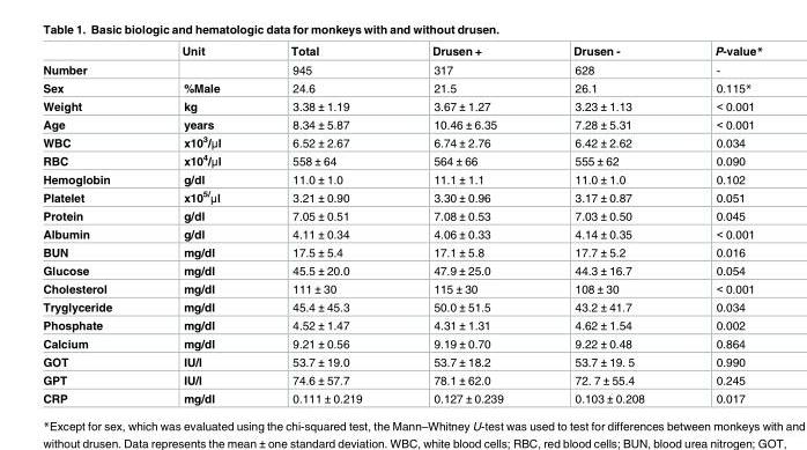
<table><thead><tr><td></td><td>Unit</td><td>Total</td><td>Drusen +</td><td>Drusen -</td><td>P-value*</td></tr></thead><tbody><tr><td>Number</td><td></td><td>945</td><td>317</td><td>628</td><td>-</td></tr><tr><td>Sex</td><td>%Male</td><td>24.6</td><td>21.5</td><td>26.1</td><td>0.115*</td></tr><tr><td>Weight</td><td>kg</td><td>3.38 ± 1.19</td><td>3.67 ± 1.27</td><td>3.23 ± 1.13</td><td>&lt; 0.001</td></tr><tr><td>Age</td><td>years</td><td>8.34 ± 5.87</td><td>10.46 ± 6.35</td><td>7.28 ± 5.31</td><td>&lt; 0.001</td></tr><tr><td>WBC</td><td>x10<sup>3</sup>/μl</td><td>6.52 ± 2.67</td><td>6.74 ± 2.76</td><td>6.42 ± 2.62</td><td>0.034</td></tr><tr><td>RBC</td><td>x10<sup>4</sup>/μl</td><td>558 ± 64</td><td>564 ± 66</td><td>555 ± 62</td><td>0.090</td></tr><tr><td>Hemoglobin</td><td>g/dl</td><td>11.0 ± 1.0</td><td>11.1 ± 1.1</td><td>11.0 ± 1.0</td><td>0.102</td></tr><tr><td>Platelet</td><td>x10<sup>5/</sup>μl</td><td>3.21 ± 0.90</td><td>3.30 ± 0.96</td><td>3.17 ± 0.87</td><td>0.051</td></tr><tr><td>Protein</td><td>g/dl</td><td>7.05 ± 0.51</td><td>7.08 ± 0.53</td><td>7.03 ± 0.50</td><td>0.045</td></tr><tr><td>Albumin</td><td>g/dl</td><td>4.11 ± 0.34</td><td>4.06 ± 0.33</td><td>4.14 ± 0.35</td><td>&lt; 0.001</td></tr><tr><td>BUN</td><td>mg/dl</td><td>17.5 ± 5.4</td><td>17.1 ± 5.8</td><td>17.7 ± 5.2</td><td>0.016</td></tr><tr><td>Glucose</td><td>mg/dl</td><td>45.5 ± 20.0</td><td>47.9 ± 25.0</td><td>44.3 ± 16.7</td><td>0.054</td></tr><tr><td>Cholesterol</td><td>mg/dl</td><td>111 ± 30</td><td>115 ± 30</td><td>108 ± 30</td><td>&lt; 0.001</td></tr><tr><td>Tryglyceride</td><td>mg/dl</td><td>45.4 ± 45.3</td><td>50.0 ± 51.5</td><td>43.2 ± 41.7</td><td>0.034</td></tr><tr><td>Phosphate</td><td>mg/dl</td><td>4.52 ± 1.47</td><td>4.31 ± 1.31</td><td>4.62 ± 1.54</td><td>0.002</td></tr><tr><td>Calcium</td><td>mg/dl</td><td>9.21 ± 0.56</td><td>9.19 ± 0.70</td><td>9.22 ± 0.48</td><td>0.864</td></tr><tr><td>GOT</td><td>IU/l</td><td>53.7 ± 19.0</td><td>53.7 ± 18.2</td><td>53.7 ± 19. 5</td><td>0.990</td></tr><tr><td>GPT</td><td>IU/l</td><td>74.6 ± 57.7</td><td>78.1 ± 62.0</td><td>72. 7 ± 55.4</td><td>0.245</td></tr><tr><td>CRP</td><td>mg/dl</td><td>0.111 ± 0.219</td><td>0.127 ± 0.239</td><td>0.103 ± 0.208</td><td>0.017</td></tr></tbody></table>